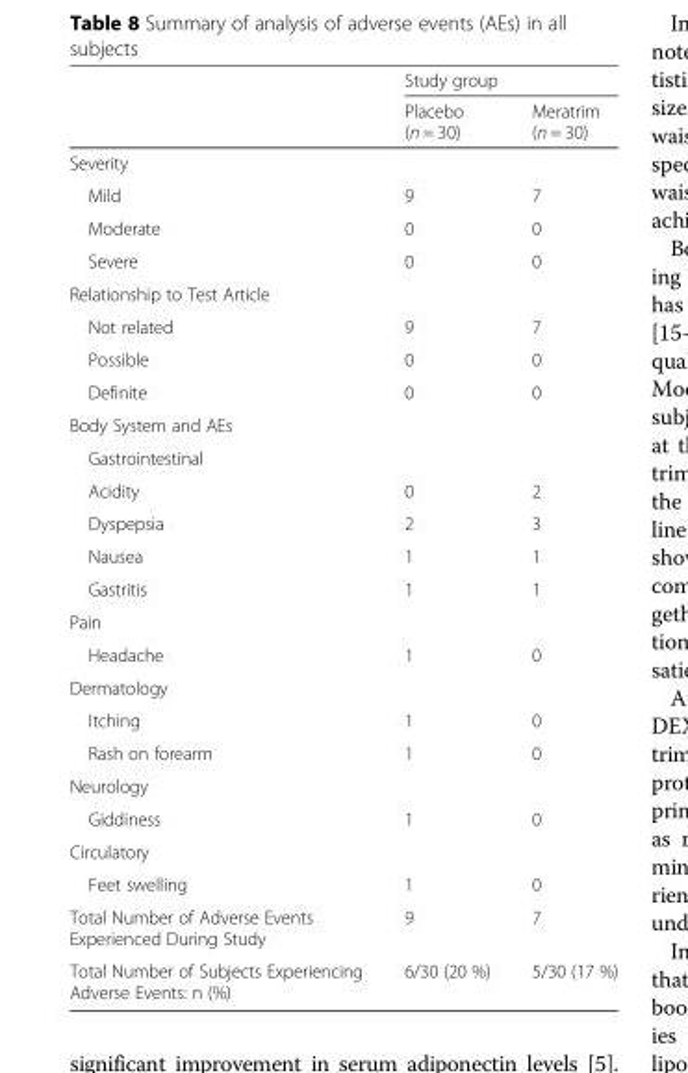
<table><thead><tr><td rowspan="2"></td><td colspan="2">Study group</td></tr><tr><td>Placebo (n = 30)</td><td>Meratrim (n = 30)</td></tr></thead><tbody><tr><td colspan="3">Severity</td></tr><tr><td>Mild</td><td>9</td><td>7</td></tr><tr><td>Moderate</td><td>0</td><td>0</td></tr><tr><td>Severe</td><td>0</td><td>0</td></tr><tr><td colspan="3">Relationship to Test Article</td></tr><tr><td>Not related</td><td>9</td><td>7</td></tr><tr><td>Possible</td><td>0</td><td>0</td></tr><tr><td>Definite</td><td>0</td><td>0</td></tr><tr><td colspan="3">Body System and AEs</td></tr><tr><td colspan="3">Gastrointestinal</td></tr><tr><td>Acidity</td><td>0</td><td>2</td></tr><tr><td>Dyspepsia</td><td>2</td><td>3</td></tr><tr><td>Nausea</td><td>1</td><td>1</td></tr><tr><td>Gastritis</td><td>1</td><td>1</td></tr><tr><td colspan="3">Pain</td></tr><tr><td>Headache</td><td>1</td><td>0</td></tr><tr><td colspan="3">Dermatology</td></tr><tr><td>Itching</td><td>1</td><td>0</td></tr><tr><td>Rash on forearm</td><td>1</td><td>0</td></tr><tr><td colspan="3">Neurology</td></tr><tr><td>Giddiness</td><td>1</td><td>0</td></tr><tr><td colspan="3">Circulatory</td></tr><tr><td>Feet swelling</td><td>1</td><td>0</td></tr><tr><td>Total Number of Adverse Events Experienced During Study</td><td>9</td><td>7</td></tr><tr><td>Total Number of Subjects Experiencing Adverse Events: n (%)</td><td>6/30 (20 %)</td><td>5/30 (17 %)</td></tr></tbody></table>